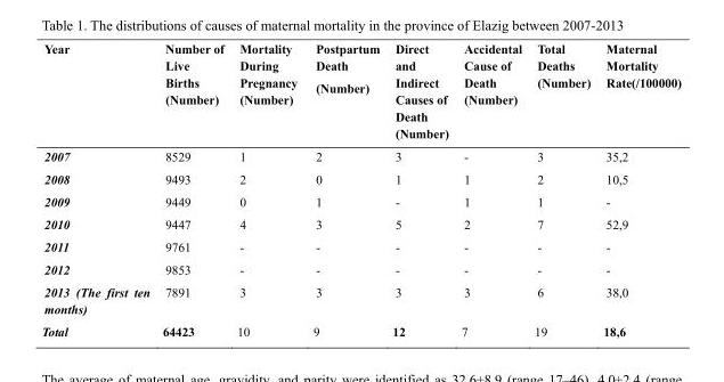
<table><thead><tr><td>Year</td><td>Number of Live Births (Number)</td><td>Mortality During Pregnancy (Number)</td><td>Postpartum Death (Number)</td><td>Direct and Indirect Causes of Death (Number)</td><td>Accidental Cause of Death (Number)</td><td>Total Deaths (Number)</td><td>Maternal Mortality Rate(/100000)</td></tr></thead><tbody><tr><td>2007</td><td>8529</td><td>1</td><td>2</td><td>3</td><td>-</td><td>3</td><td>35,2</td></tr><tr><td>2008</td><td>9493</td><td>2</td><td>0</td><td>1</td><td>1</td><td>2</td><td>10,5</td></tr><tr><td>2009</td><td>9449</td><td>0</td><td>1</td><td>-</td><td>1</td><td>1</td><td>-</td></tr><tr><td>2010</td><td>9447</td><td>4</td><td>3</td><td>5</td><td>2</td><td>7</td><td>52,9</td></tr><tr><td>2011</td><td>9761</td><td>-</td><td>-</td><td>-</td><td>-</td><td>-</td><td>-</td></tr><tr><td>2012</td><td>9853</td><td>-</td><td>-</td><td>-</td><td>-</td><td>-</td><td>-</td></tr><tr><td>2013 (The first ten months)</td><td>7891</td><td>3</td><td>3</td><td>3</td><td>3</td><td>6</td><td>38,0</td></tr><tr><td>Total</td><td>64423</td><td>10</td><td>9</td><td>12</td><td>7</td><td>19</td><td>18,6</td></tr></tbody></table>